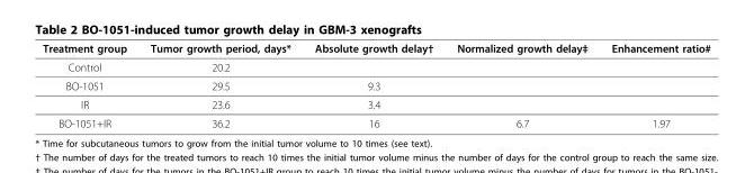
<table><thead><tr><td>Treatment group</td><td>Tumor growth period, days*</td><td>Absolute growth delay†</td><td>Normalized growth delay‡</td><td>Enhancement ratio#</td></tr></thead><tbody><tr><td>Control</td><td>20.2</td><td></td><td></td><td></td></tr><tr><td>BO-1051</td><td>29.5</td><td>9.3</td><td></td><td></td></tr><tr><td>IR</td><td>23.6</td><td>3.4</td><td></td><td></td></tr><tr><td>BO-1051+IR</td><td>36.2</td><td>16</td><td>6.7</td><td>1.97</td></tr></tbody></table>